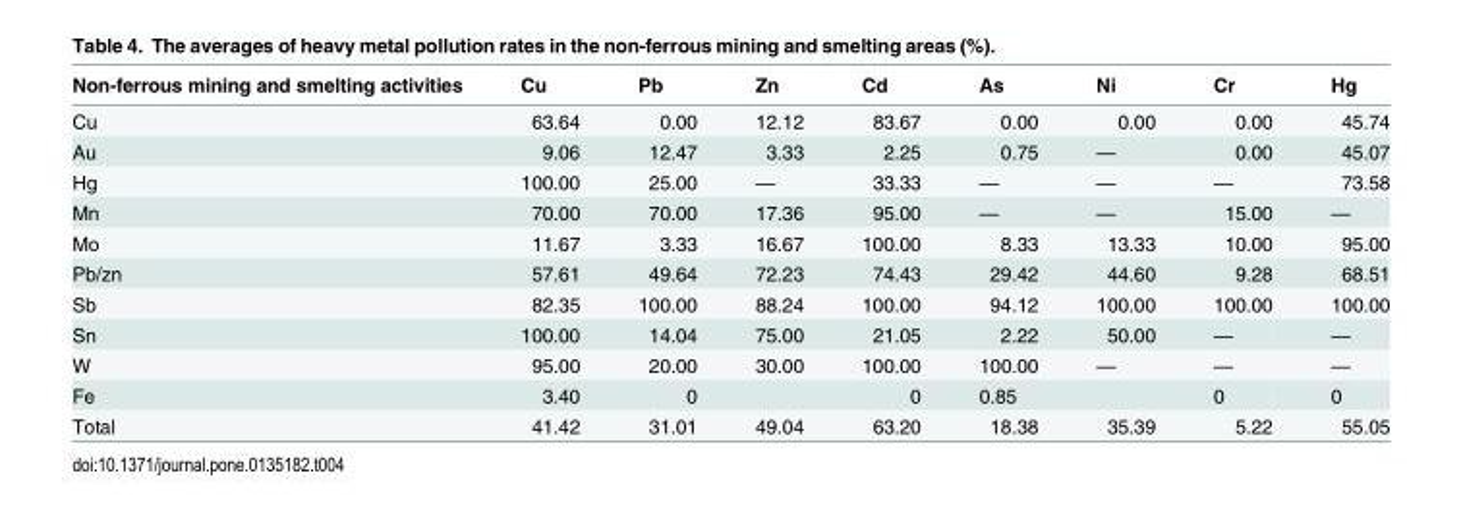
<table><thead><tr><td>Non-ferrous mining and smelting activities</td><td>Cu</td><td>Pb</td><td>Zn</td><td>Cd</td><td>As</td><td>Ni</td><td>Cr</td><td>Hg</td></tr></thead><tbody><tr><td>Cu</td><td>63.64</td><td>0.00</td><td>12.12</td><td>83.67</td><td>0.00</td><td>0.00</td><td>0.00</td><td>45.74</td></tr><tr><td>Au</td><td>9.06</td><td>12.47</td><td>3.33</td><td>2.25</td><td>0.75</td><td>—</td><td>0.00</td><td>45.07</td></tr><tr><td>Hg</td><td>100.00</td><td>25.00</td><td>—</td><td>33.33</td><td>—</td><td>—</td><td>—</td><td>73.58</td></tr><tr><td>Mn</td><td>70.00</td><td>70.00</td><td>17.36</td><td>95.00</td><td>—</td><td>—</td><td>15.00</td><td>—</td></tr><tr><td>Mo</td><td>11.67</td><td>3.33</td><td>16.67</td><td>100.00</td><td>8.33</td><td>13.33</td><td>10.00</td><td>95.00</td></tr><tr><td>Pb/zn</td><td>57.61</td><td>49.64</td><td>72.23</td><td>74.43</td><td>29.42</td><td>44.60</td><td>9.28</td><td>68.51</td></tr><tr><td>Sb</td><td>82.35</td><td>100.00</td><td>88.24</td><td>100.00</td><td>94.12</td><td>100.00</td><td>100.00</td><td>100.00</td></tr><tr><td>Sn</td><td>100.00</td><td>14.04</td><td>75.00</td><td>21.05</td><td>2.22</td><td>50.00</td><td>—</td><td>—</td></tr><tr><td>W</td><td>95.00</td><td>20.00</td><td>30.00</td><td>100.00</td><td>100.00</td><td>—</td><td>—</td><td>—</td></tr><tr><td>Fe</td><td>3.40</td><td>0</td><td></td><td>0</td><td>0.85</td><td></td><td>0</td><td>0</td></tr><tr><td>Total</td><td>41.42</td><td>31.01</td><td>49.04</td><td>63.20</td><td>18.38</td><td>35.39</td><td>5.22</td><td>55.05</td></tr></tbody></table>